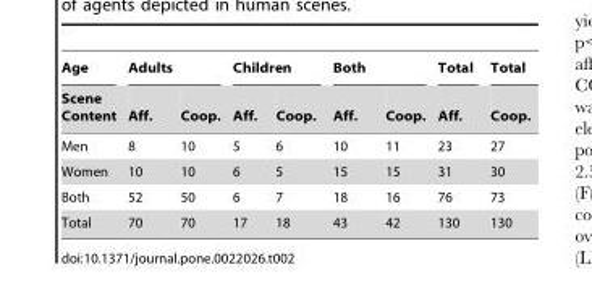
<table><thead><tr><td rowspan="2">Age Scene Content</td><td colspan="2">Adults</td><td colspan="2">Children</td><td colspan="2">Both</td><td rowspan="2">Total Aff.</td><td rowspan="2">Total Coop.</td></tr><tr><td>Aff.</td><td>Coop.</td><td>Aff.</td><td>Coop.</td><td>Aff.</td><td>Coop.</td></tr></thead><tbody><tr><td>Men</td><td>8</td><td>10</td><td>5</td><td>6</td><td>10</td><td>11</td><td>23</td><td>27</td></tr><tr><td>Women</td><td>10</td><td>10</td><td>6</td><td>5</td><td>15</td><td>15</td><td>31</td><td>30</td></tr><tr><td>Both</td><td>52</td><td>50</td><td>6</td><td>7</td><td>18</td><td>16</td><td>76</td><td>73</td></tr><tr><td>Total</td><td>70</td><td>70</td><td>17</td><td>18</td><td>43</td><td>42</td><td>130</td><td>130</td></tr></tbody></table>